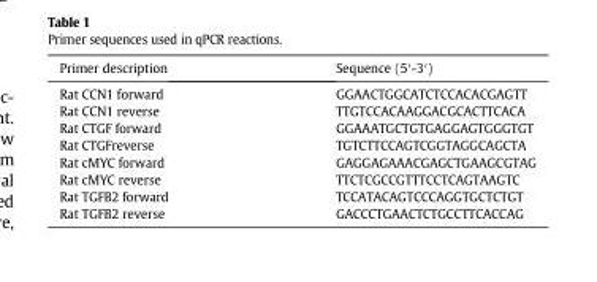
<table><thead><tr><td>Primer description</td><td>Sequence (5′-3′)</td></tr></thead><tbody><tr><td>Rat CCN1 forward</td><td>GGAACTGGCATCTCCACACGAGTT</td></tr><tr><td>Rat CCN1 reverse</td><td>TTGTCCACAAGGACGCACTTCACA</td></tr><tr><td>Rat CTGF forward</td><td>GGAAATGCTGTGAGGAGTGGGTGT</td></tr><tr><td>Rat CTGFreverse</td><td>TGTCTTCCAGTCGGTAGGCAGCTA</td></tr><tr><td>Rat cMYC forward</td><td>GAGGAGAAACGAGCTGAAGCGTAG</td></tr><tr><td>Rat cMYC reverse</td><td>TTCTCGCCGTTTCCTCAGTAAGTC</td></tr><tr><td>Rat TGFB2 forward</td><td>TCCATACAGTCCCAGGTGCTCTGT</td></tr><tr><td>Rat TGFB2 reverse</td><td>GACCCTGAACTCTGCCTTCACCAG</td></tr></tbody></table>